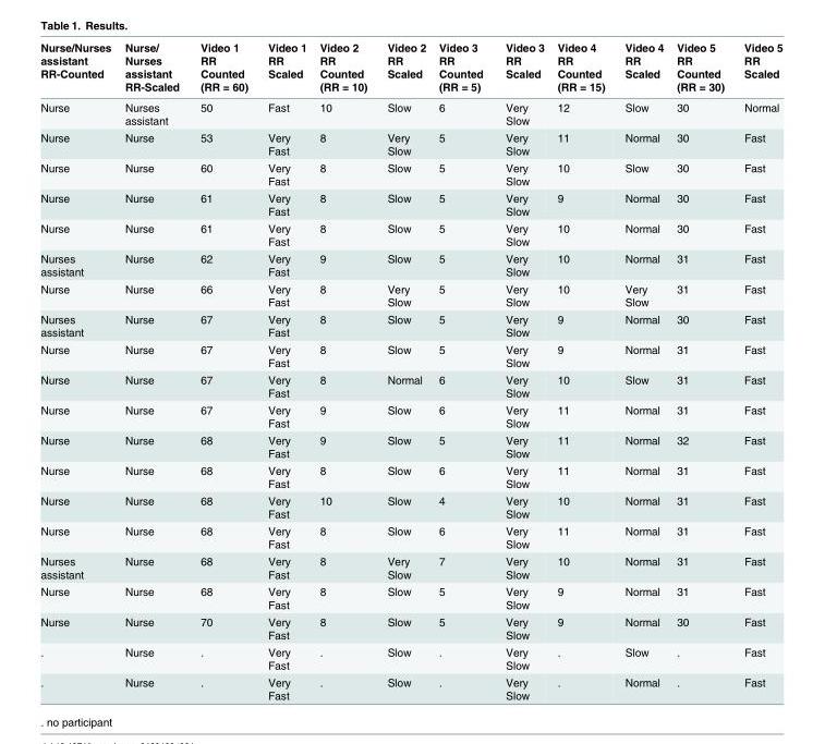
<table><thead><tr><td>Nurse/Nurses assistant RR-Counted</td><td>Nurse/ Nurses assistant RR-Scaled</td><td>Video 1 RR Counted (RR = 60)</td><td>Video 1 RR Scaled</td><td>Video 2 RR Counted (RR = 10)</td><td>Video 2 RR Scaled</td><td>Video 3 RR Counted (RR = 5)</td><td>Video 3 RR Scaled</td><td>Video 4 RR Counted (RR = 15)</td><td>Video 4 RR Scaled</td><td>Video 5 RR Counted (RR = 30)</td><td>Video 5 RR Scaled</td></tr></thead><tbody><tr><td>Nurse</td><td>Nurses assistant</td><td>50</td><td>Fast</td><td>10</td><td>Slow</td><td>6</td><td>Very Slow</td><td>12</td><td>Slow</td><td>30</td><td>Normal</td></tr><tr><td>Nurse</td><td>Nurse</td><td>53</td><td>Very Fast</td><td>8</td><td>Very Slow</td><td>5</td><td>Very Slow</td><td>11</td><td>Normal</td><td>30</td><td>Fast</td></tr><tr><td>Nurse</td><td>Nurse</td><td>60</td><td>Very Fast</td><td>8</td><td>Slow</td><td>5</td><td>Very Slow</td><td>10</td><td>Slow</td><td>30</td><td>Fast</td></tr><tr><td>Nurse</td><td>Nurse</td><td>61</td><td>Very Fast</td><td>8</td><td>Slow</td><td>5</td><td>Very Slow</td><td>9</td><td>Normal</td><td>30</td><td>Fast</td></tr><tr><td>Nurse</td><td>Nurse</td><td>61</td><td>Very Fast</td><td>8</td><td>Slow</td><td>5</td><td>Very Slow</td><td>10</td><td>Normal</td><td>30</td><td>Fast</td></tr><tr><td>Nurses assistant</td><td>Nurse</td><td>62</td><td>Very Fast</td><td>9</td><td>Slow</td><td>5</td><td>Very Slow</td><td>10</td><td>Normal</td><td>31</td><td>Fast</td></tr><tr><td>Nurse</td><td>Nurse</td><td>66</td><td>Very Fast</td><td>8</td><td>Very Slow</td><td>5</td><td>Very Slow</td><td>10</td><td>Very Slow</td><td>31</td><td>Fast</td></tr><tr><td>Nurses assistant</td><td>Nurse</td><td>67</td><td>Very Fast</td><td>8</td><td>Slow</td><td>5</td><td>Very Slow</td><td>9</td><td>Normal</td><td>30</td><td>Fast</td></tr><tr><td>Nurse</td><td>Nurse</td><td>67</td><td>Very Fast</td><td>8</td><td>Slow</td><td>5</td><td>Very Slow</td><td>9</td><td>Normal</td><td>31</td><td>Fast</td></tr><tr><td>Nurse</td><td>Nurse</td><td>67</td><td>Very Fast</td><td>8</td><td>Normal</td><td>6</td><td>Very Slow</td><td>10</td><td>Slow</td><td>31</td><td>Fast</td></tr><tr><td>Nurse</td><td>Nurse</td><td>67</td><td>Very Fast</td><td>9</td><td>Slow</td><td>6</td><td>Very Slow</td><td>11</td><td>Normal</td><td>31</td><td>Fast</td></tr><tr><td>Nurse</td><td>Nurse</td><td>68</td><td>Very Fast</td><td>9</td><td>Slow</td><td>5</td><td>Very Slow</td><td>11</td><td>Normal</td><td>32</td><td>Fast</td></tr><tr><td>Nurse</td><td>Nurse</td><td>68</td><td>Very Fast</td><td>8</td><td>Slow</td><td>6</td><td>Very Slow</td><td>11</td><td>Normal</td><td>31</td><td>Fast</td></tr><tr><td>Nurse</td><td>Nurse</td><td>68</td><td>Very Fast</td><td>10</td><td>Slow</td><td>4</td><td>Very Slow</td><td>10</td><td>Normal</td><td>31</td><td>Fast</td></tr><tr><td>Nurse</td><td>Nurse</td><td>68</td><td>Very Fast</td><td>8</td><td>Slow</td><td>6</td><td>Very Slow</td><td>11</td><td>Normal</td><td>31</td><td>Fast</td></tr><tr><td>Nurses assistant</td><td>Nurse</td><td>68</td><td>Very Fast</td><td>8</td><td>Very Slow</td><td>7</td><td>Very Slow</td><td>10</td><td>Normal</td><td>31</td><td>Fast</td></tr><tr><td>Nurse</td><td>Nurse</td><td>68</td><td>Very Fast</td><td>8</td><td>Slow</td><td>5</td><td>Very Slow</td><td>9</td><td>Normal</td><td>31</td><td>Fast</td></tr><tr><td>Nurse</td><td>Nurse</td><td>70</td><td>Very Fast</td><td>8</td><td>Slow</td><td>5</td><td>Very Slow</td><td>9</td><td>Normal</td><td>30</td><td>Fast</td></tr><tr><td>.</td><td>Nurse</td><td>.</td><td>Very Fast</td><td>.</td><td>Slow</td><td>.</td><td>Very Slow</td><td>.</td><td>Slow</td><td>.</td><td>Fast</td></tr><tr><td>.</td><td>Nurse</td><td>.</td><td>Very Fast</td><td>.</td><td>Slow</td><td>.</td><td>Very Slow</td><td>.</td><td>Normal</td><td>.</td><td>Fast</td></tr></tbody></table>